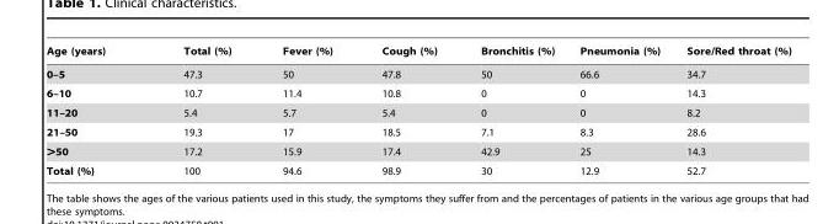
<table><thead><tr><td>Age (years)</td><td>Total (%)</td><td>Fever (%)</td><td>Cough (%)</td><td>Bronchitis (%)</td><td>Pneumonia (%)</td><td>Sore/Red throat (%)</td></tr></thead><tbody><tr><td>0–5</td><td>47.3</td><td>50</td><td>47.8</td><td>50</td><td>66.6</td><td>34.7</td></tr><tr><td>6–10</td><td>10.7</td><td>11.4</td><td>10.8</td><td>0</td><td>0</td><td>14.3</td></tr><tr><td>11–20</td><td>5.4</td><td>5.7</td><td>5.4</td><td>0</td><td>0</td><td>8.2</td></tr><tr><td>21–50</td><td>19.3</td><td>17</td><td>18.5</td><td>7.1</td><td>8.3</td><td>28.6</td></tr><tr><td>&gt;50</td><td>17.2</td><td>15.9</td><td>17.4</td><td>42.9</td><td>25</td><td>14.3</td></tr><tr><td>Total (%)</td><td>100</td><td>94.6</td><td>98.9</td><td>30</td><td>12.9</td><td>52.7</td></tr></tbody></table>